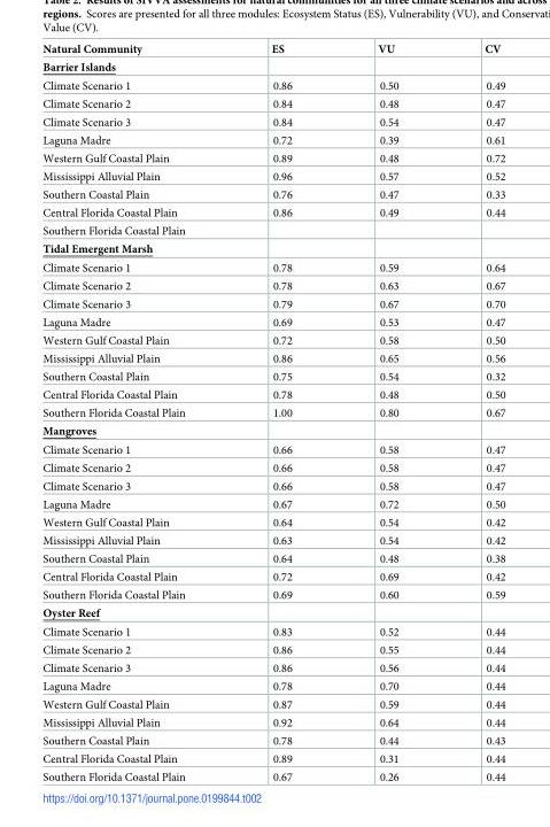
<table><thead><tr><td>Natural Community</td><td>ES</td><td>VU</td><td>CV</td></tr></thead><tbody><tr><td colspan="4">Barrier Islands</td></tr><tr><td>Climate Scenario 1</td><td>0.86</td><td>0.50</td><td>0.49</td></tr><tr><td>Climate Scenario 2</td><td>0.84</td><td>0.48</td><td>0.47</td></tr><tr><td>Climate Scenario 3</td><td>0.84</td><td>0.54</td><td>0.47</td></tr><tr><td>Laguna Madre</td><td>0.72</td><td>0.39</td><td>0.61</td></tr><tr><td>Western Gulf Coastal Plain</td><td>0.89</td><td>0.48</td><td>0.72</td></tr><tr><td>Mississippi Alluvial Plain</td><td>0.96</td><td>0.57</td><td>0.52</td></tr><tr><td>Southern Coastal Plain</td><td>0.76</td><td>0.47</td><td>0.33</td></tr><tr><td>Central Florida Coastal Plain</td><td>0.86</td><td>0.49</td><td>0.44</td></tr><tr><td colspan="4">Southern Florida Coastal Plain</td></tr><tr><td colspan="4">Tidal Emergent Marsh</td></tr><tr><td>Climate Scenario 1</td><td>0.78</td><td>0.59</td><td>0.64</td></tr><tr><td>Climate Scenario 2</td><td>0.78</td><td>0.63</td><td>0.67</td></tr><tr><td>Climate Scenario 3</td><td>0.79</td><td>0.67</td><td>0.70</td></tr><tr><td>Laguna Madre</td><td>0.69</td><td>0.53</td><td>0.47</td></tr><tr><td>Western Gulf Coastal Plain</td><td>0.72</td><td>0.58</td><td>0.50</td></tr><tr><td>Mississippi Alluvial Plain</td><td>0.86</td><td>0.65</td><td>0.56</td></tr><tr><td>Southern Coastal Plain</td><td>0.75</td><td>0.54</td><td>0.32</td></tr><tr><td>Central Florida Coastal Plain</td><td>0.78</td><td>0.48</td><td>0.50</td></tr><tr><td>Southern Florida Coastal Plain</td><td>1.00</td><td>0.80</td><td>0.67</td></tr><tr><td colspan="4">Mangroves</td></tr><tr><td>Climate Scenario 1</td><td>0.66</td><td>0.58</td><td>0.47</td></tr><tr><td>Climate Scenario 2</td><td>0.66</td><td>0.58</td><td>0.47</td></tr><tr><td>Climate Scenario 3</td><td>0.66</td><td>0.58</td><td>0.47</td></tr><tr><td>Laguna Madre</td><td>0.67</td><td>0.72</td><td>0.50</td></tr><tr><td>Western Gulf Coastal Plain</td><td>0.64</td><td>0.54</td><td>0.42</td></tr><tr><td>Mississippi Alluvial Plain</td><td>0.63</td><td>0.54</td><td>0.42</td></tr><tr><td>Southern Coastal Plain</td><td>0.64</td><td>0.48</td><td>0.38</td></tr><tr><td>Central Florida Coastal Plain</td><td>0.72</td><td>0.69</td><td>0.42</td></tr><tr><td>Southern Florida Coastal Plain</td><td>0.69</td><td>0.60</td><td>0.59</td></tr><tr><td colspan="4">Oyster Reef</td></tr><tr><td>Climate Scenario 1</td><td>0.83</td><td>0.52</td><td>0.44</td></tr><tr><td>Climate Scenario 2</td><td>0.86</td><td>0.55</td><td>0.44</td></tr><tr><td>Climate Scenario 3</td><td>0.86</td><td>0.56</td><td>0.44</td></tr><tr><td>Laguna Madre</td><td>0.78</td><td>0.70</td><td>0.44</td></tr><tr><td>Western Gulf Coastal Plain</td><td>0.87</td><td>0.59</td><td>0.44</td></tr><tr><td>Mississippi Alluvial Plain</td><td>0.92</td><td>0.64</td><td>0.44</td></tr><tr><td>Southern Coastal Plain</td><td>0.78</td><td>0.44</td><td>0.43</td></tr><tr><td>Central Florida Coastal Plain</td><td>0.89</td><td>0.31</td><td>0.44</td></tr><tr><td>Southern Florida Coastal Plain</td><td>0.67</td><td>0.26</td><td>0.44</td></tr></tbody></table>